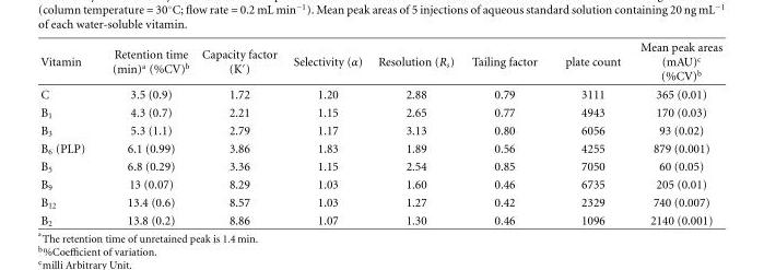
<table><thead><tr><td>Vitamin</td><td>Retention time (min)<sup>a</sup> (%CV)<sup>b</sup></td><td>Capacity factor (K′)</td><td>Selectivity (α)</td><td>Resolution (R<sub>s</sub>)</td><td>Tailing factor</td><td>plate count</td><td>Mean peak areas (mAU)<sup>c</sup> (%CV)<sup>b</sup></td></tr></thead><tbody><tr><td>C</td><td>3.5 (0.9)</td><td>1.72</td><td>1.20</td><td>2.88</td><td>0.79</td><td>3111</td><td>365 (0.01)</td></tr><tr><td>B<sub>1</sub></td><td>4.3 (0.7)</td><td>2.21</td><td>1.15</td><td>2.65</td><td>0.77</td><td>4943</td><td>170 (0.03)</td></tr><tr><td>B<sub>3</sub></td><td>5.3 (1.1)</td><td>2.79</td><td>1.17</td><td>3.13</td><td>0.80</td><td>6056</td><td>93 (0.02)</td></tr><tr><td>B<sub>6</sub> (PLP)</td><td>6.1 (0.99)</td><td>3.86</td><td>1.83</td><td>1.89</td><td>0.56</td><td>4255</td><td>879 (0.001)</td></tr><tr><td>B<sub>5</sub></td><td>6.8 (0.29)</td><td>3.36</td><td>1.15</td><td>2.54</td><td>0.85</td><td>7050</td><td>60 (0.05)</td></tr><tr><td>B<sub>9</sub></td><td>13 (0.07)</td><td>8.29</td><td>1.03</td><td>1.60</td><td>0.46</td><td>6735</td><td>205 (0.01)</td></tr><tr><td>B<sub>12</sub></td><td>13.4 (0.6)</td><td>8.57</td><td>1.03</td><td>1.27</td><td>0.42</td><td>2329</td><td>740 (0.007)</td></tr><tr><td>B<sub>2</sub></td><td>13.8 (0.2)</td><td>8.86</td><td>1.07</td><td>1.30</td><td>0.46</td><td>1096</td><td>2140 (0.001)</td></tr></tbody></table>